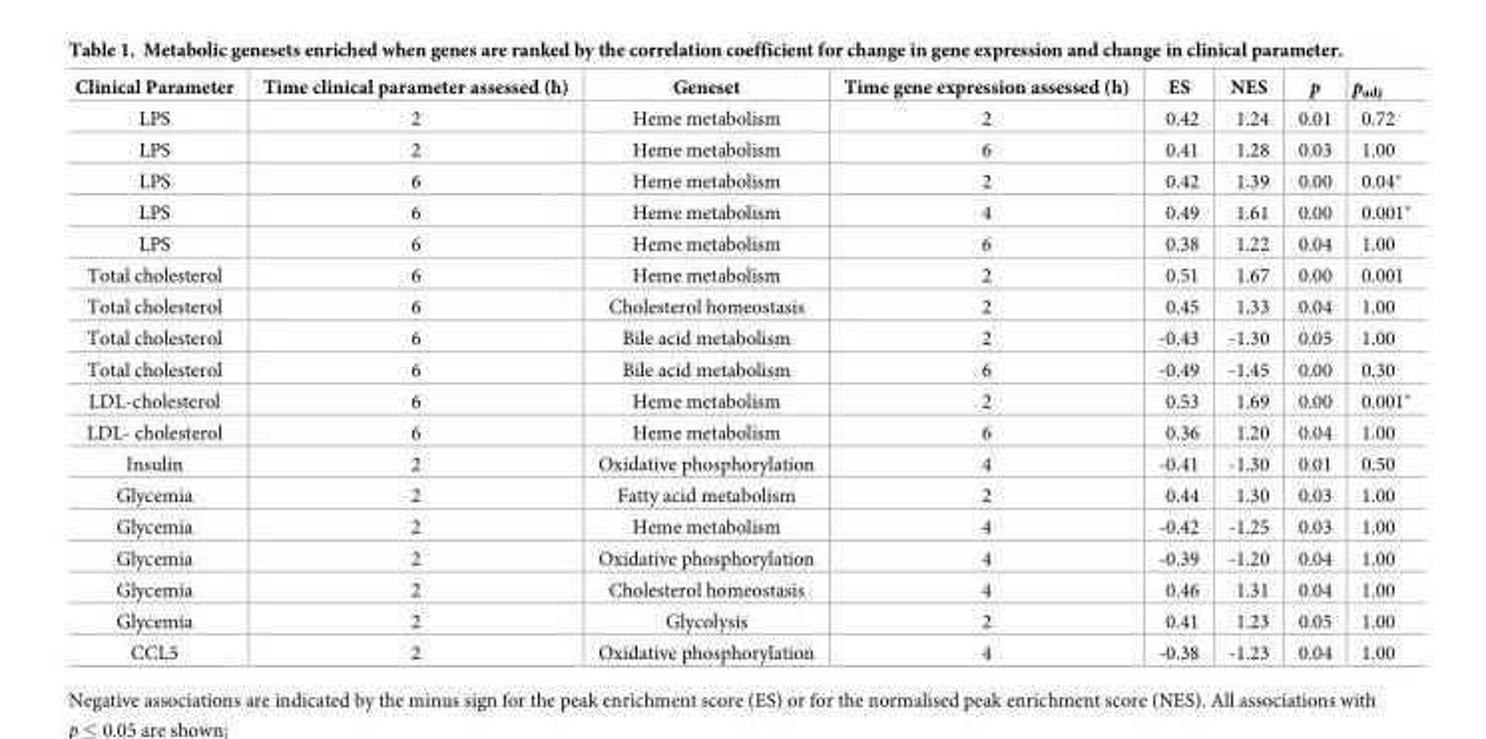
<table><thead><tr><td>Clinical Parameter</td><td>Time clinical parameter assessed (h)</td><td>Geneset</td><td>Time gene expression assessed (h)</td><td>ES</td><td>NES</td><td>p</td><td>p<sub>adj</sub></td></tr></thead><tbody><tr><td>LPS</td><td>2</td><td>Heme metabolism</td><td>2</td><td>0.42</td><td>1.24</td><td>0.01</td><td>0.72</td></tr><tr><td>LPS</td><td>2</td><td>Heme metabolism</td><td>6</td><td>0.41</td><td>1.28</td><td>0.03</td><td>1.00</td></tr><tr><td>LPS</td><td>6</td><td>Heme metabolism</td><td>2</td><td>0.42</td><td>1.39</td><td>0.00</td><td>0.04*</td></tr><tr><td>LPS</td><td>6</td><td>Heme metabolism</td><td>4</td><td>0.49</td><td>1.61</td><td>0.00</td><td>0.001*</td></tr><tr><td>LPS</td><td>6</td><td>Heme metabolism</td><td>6</td><td>0.38</td><td>1.22</td><td>0.04</td><td>1.00</td></tr><tr><td>Total cholesterol</td><td>6</td><td>Heme metabolism</td><td>2</td><td>0.51</td><td>1.67</td><td>0.00</td><td>0.001</td></tr><tr><td>Total cholesterol</td><td>6</td><td>Cholesterol homeostasis</td><td>2</td><td>0.45</td><td>1.33</td><td>0.04</td><td>1.00</td></tr><tr><td>Total cholesterol</td><td>6</td><td>Bile acid metabolism</td><td>2</td><td>-0.43</td><td>-1.30</td><td>0.05</td><td>1.00</td></tr><tr><td>Total cholesterol</td><td>6</td><td>Bile acid metabolism</td><td>6</td><td>-0.49</td><td>-1.45</td><td>0.00</td><td>0.30</td></tr><tr><td>LDL-cholesterol</td><td>6</td><td>Heme metabolism</td><td>2</td><td>0.53</td><td>1.69</td><td>0.00</td><td>0.001*</td></tr><tr><td>LDL- cholesterol</td><td>6</td><td>Heme metabolism</td><td>6</td><td>0.36</td><td>1.20</td><td>0.04</td><td>1.00</td></tr><tr><td>Insulin</td><td>2</td><td>Oxidative phosphorylation</td><td>4</td><td>-0.41</td><td>-1.30</td><td>0.01</td><td>0.50</td></tr><tr><td>Glycemia</td><td>2</td><td>Fatty acid metabolism</td><td>2</td><td>0.44</td><td>1.30</td><td>0.03</td><td>1.00</td></tr><tr><td>Glycemia</td><td>2</td><td>Heme metabolism</td><td>4</td><td>-0.42</td><td>-1.25</td><td>0.03</td><td>1.00</td></tr><tr><td>Glycemia</td><td>2</td><td>Oxidative phosphorylation</td><td>4</td><td>-0.39</td><td>-1.20</td><td>0.04</td><td>1.00</td></tr><tr><td>Glycemia</td><td>2</td><td>Cholesterol homeostasis</td><td>4</td><td>0.46</td><td>1.31</td><td>0.04</td><td>1.00</td></tr><tr><td>Glycemia</td><td>2</td><td>Glycolysis</td><td>2</td><td>0.41</td><td>1.23</td><td>0.05</td><td>1.00</td></tr><tr><td>CCL5</td><td>2</td><td>Oxidative phosphorylation</td><td>4</td><td>-0.38</td><td>-1.23</td><td>0.04</td><td>1.00</td></tr></tbody></table>